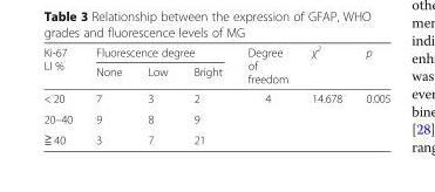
<table><thead><tr><td rowspan="2">Ki-67 LI %</td><td colspan="3">Fluorescence degree</td><td rowspan="2">Degree of freedom</td><td rowspan="2">χ<sup>2</sup></td><td rowspan="2">p</td></tr><tr><td>None</td><td>Low</td><td>Bright</td></tr></thead><tbody><tr><td>&lt; 20</td><td>7</td><td>3</td><td>2</td><td rowspan="3">4</td><td rowspan="3">14.678</td><td rowspan="3">0.005</td></tr><tr><td>20–40</td><td>9</td><td>8</td><td>9</td></tr><tr><td>≧ 40</td><td>3</td><td>7</td><td>21</td></tr></tbody></table>